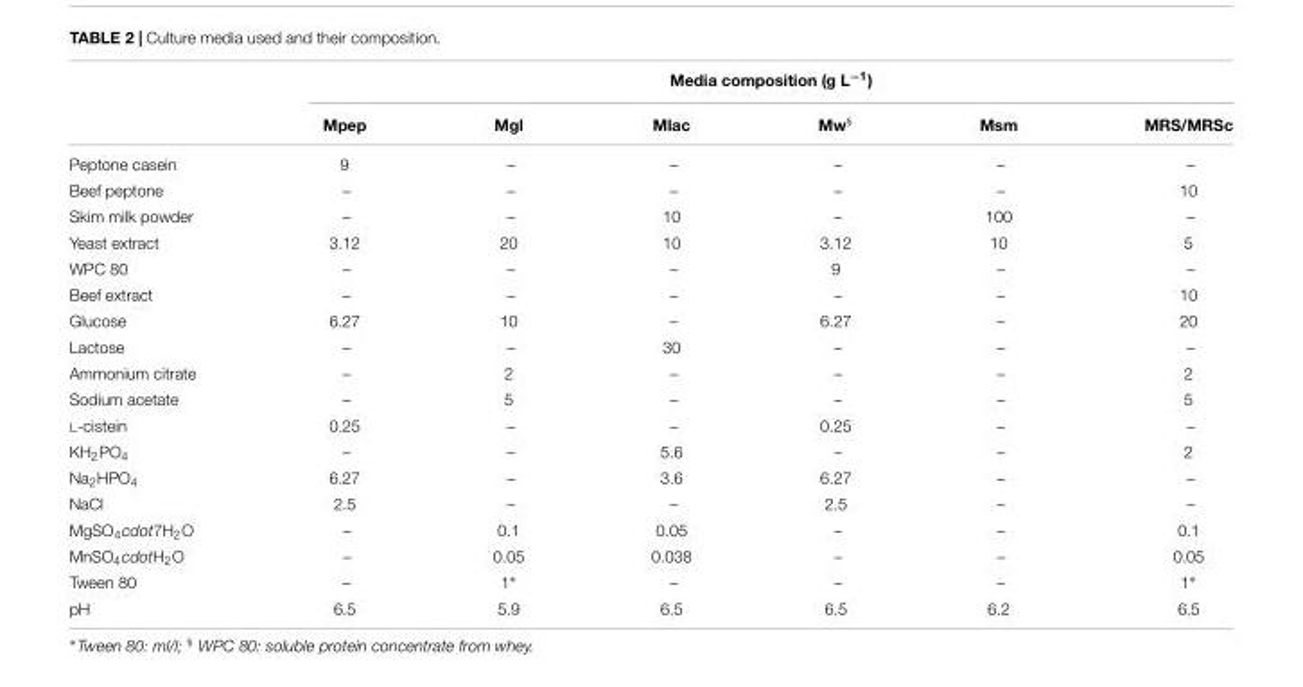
<table><thead><tr><td rowspan="2"></td><td colspan="6">Media composition (g L<sup>−1</sup>)</td></tr><tr><td>Mpep</td><td>Mgl</td><td>Mlac</td><td>Mw<sup>§</sup></td><td>Msm</td><td>MRS/MRSc</td></tr></thead><tbody><tr><td>Peptone casein</td><td>9</td><td>–</td><td>–</td><td>–</td><td>–</td><td>–</td></tr><tr><td>Beef peptone</td><td>–</td><td>–</td><td>–</td><td>–</td><td>–</td><td>10</td></tr><tr><td>Skim milk powder</td><td>–</td><td>–</td><td>10</td><td>–</td><td>100</td><td>–</td></tr><tr><td>Yeast extract</td><td>3.12</td><td>20</td><td>10</td><td>3.12</td><td>10</td><td>5</td></tr><tr><td>WPC 80</td><td>–</td><td>–</td><td>–</td><td>9</td><td>–</td><td>–</td></tr><tr><td>Beef extract</td><td>–</td><td>–</td><td>–</td><td>–</td><td>–</td><td>10</td></tr><tr><td>Glucose</td><td>6.27</td><td>10</td><td>–</td><td>6.27</td><td>–</td><td>20</td></tr><tr><td>Lactose</td><td>–</td><td>–</td><td>30</td><td>–</td><td>–</td><td>–</td></tr><tr><td>Ammonium citrate</td><td>–</td><td>2</td><td>–</td><td>–</td><td>–</td><td>2</td></tr><tr><td>Sodium acetate</td><td>–</td><td>5</td><td>–</td><td>–</td><td>–</td><td>5</td></tr><tr><td>L-cistein</td><td>0.25</td><td>–</td><td>–</td><td>0.25</td><td>–</td><td>–</td></tr><tr><td>KH<sub>2</sub>PO<sub>4</sub></td><td>–</td><td>–</td><td>5.6</td><td>–</td><td>–</td><td>2</td></tr><tr><td>Na<sub>2</sub>HPO<sub>4</sub></td><td>6.27</td><td>–</td><td>3.6</td><td>6.27</td><td>–</td><td>–</td></tr><tr><td>NaCl</td><td>2.5</td><td>–</td><td>–</td><td>2.5</td><td>–</td><td>–</td></tr><tr><td>MgSO<sub>4</sub>cdot7H<sub>2</sub>O</td><td>–</td><td>0.1</td><td>0.05</td><td>–</td><td>–</td><td>0.1</td></tr><tr><td>MnSO<sub>4</sub>cdotH<sub>2</sub>O</td><td>–</td><td>0.05</td><td>0.038</td><td>–</td><td>–</td><td>0.05</td></tr><tr><td>Tween 80</td><td>–</td><td>1∗</td><td>–</td><td>–</td><td>–</td><td>1∗</td></tr><tr><td>pH</td><td>6.5</td><td>5.9</td><td>6.5</td><td>6.5</td><td>6.2</td><td>6.5</td></tr></tbody></table>